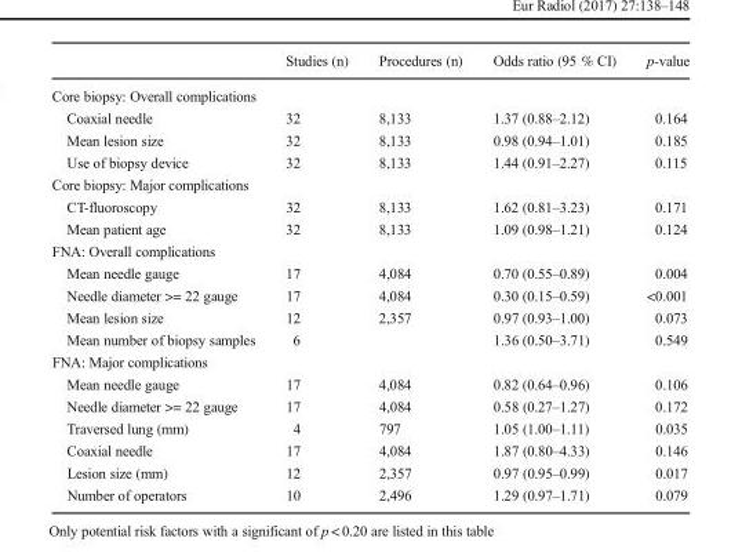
<table><thead><tr><td></td><td>Studies (n)</td><td>Procedures (n)</td><td>Odds ratio (95 % CI)</td><td>p-value</td></tr></thead><tbody><tr><td colspan="5">Core biopsy: Overall complications</td></tr><tr><td>Coaxial needle</td><td>32</td><td>8,133</td><td>1.37 (0.88–2.12)</td><td>0.164</td></tr><tr><td>Mean lesion size</td><td>32</td><td>8,133</td><td>0.98 (0.94–1.01)</td><td>0.185</td></tr><tr><td>Use of biopsy device</td><td>32</td><td>8,133</td><td>1.44 (0.91–2.27)</td><td>0.115</td></tr><tr><td colspan="5">Core biopsy: Major complications</td></tr><tr><td>CT-fluoroscopy</td><td>32</td><td>8,133</td><td>1.62 (0.81–3.23)</td><td>0.171</td></tr><tr><td>Mean patient age</td><td>32</td><td>8,133</td><td>1.09 (0.98–1.21)</td><td>0.124</td></tr><tr><td colspan="5">FNA: Overall complications</td></tr><tr><td>Mean needle gauge</td><td>17</td><td>4,084</td><td>0.70 (0.55–0.89)</td><td>0.004</td></tr><tr><td>Needle diameter &gt;= 22 gauge</td><td>17</td><td>4,084</td><td>0.30 (0.15–0.59)</td><td>&lt;0.001</td></tr><tr><td>Mean lesion size</td><td>12</td><td>2,357</td><td>0.97 (0.93–1.00)</td><td>0.073</td></tr><tr><td>Mean number of biopsy samples</td><td>6</td><td></td><td>1.36 (0.50–3.71)</td><td>0.549</td></tr><tr><td colspan="5">FNA: Major complications</td></tr><tr><td>Mean needle gauge</td><td>17</td><td>4,084</td><td>0.82 (0.64–0.96)</td><td>0.106</td></tr><tr><td>Needle diameter &gt;= 22 gauge</td><td>17</td><td>4,084</td><td>0.58 (0.27–1.27)</td><td>0.172</td></tr><tr><td>Traversed lung (mm)</td><td>4</td><td>797</td><td>1.05 (1.00–1.11)</td><td>0.035</td></tr><tr><td>Coaxial needle</td><td>17</td><td>4,084</td><td>1.87 (0.80–4.33)</td><td>0.146</td></tr><tr><td>Lesion size (mm)</td><td>12</td><td>2,357</td><td>0.97 (0.95–0.99)</td><td>0.017</td></tr><tr><td>Number of operators</td><td>10</td><td>2,496</td><td>1.29 (0.97–1.71)</td><td>0.079</td></tr></tbody></table>